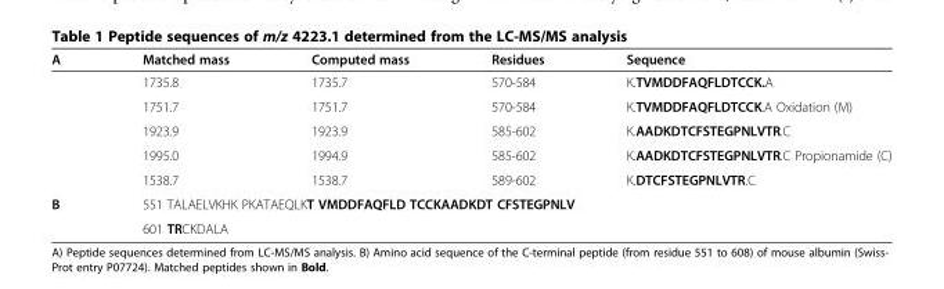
<table><thead><tr><td>A</td><td>Matched mass</td><td>Computed mass</td><td>Residues</td><td>Sequence</td></tr></thead><tbody><tr><td></td><td>1735.8</td><td>1735.7</td><td>570-584</td><td>K.TVMDDFAQFLDTCCK.A</td></tr><tr><td></td><td>1751.7</td><td>1751.7</td><td>570-584</td><td>K.TVMDDFAQFLDTCCK.A Oxidation (M)</td></tr><tr><td></td><td>1923.9</td><td>1923.9</td><td>585-602</td><td>K.AADKDTCFSTEGPNLVTR.C</td></tr><tr><td></td><td>1995.0</td><td>1994.9</td><td>585-602</td><td>K.AADKDTCFSTEGPNLVTR.C Propionamide (C)</td></tr><tr><td></td><td>1538.7</td><td>1538.7</td><td>589-602</td><td>K.DTCFSTEGPNLVTR.C</td></tr><tr><td rowspan="2">B</td><td colspan="4">551 TALAELVKHK PKATAEQLKT VMDDFAQFLD TCCKAADKDT CFSTEGPNLV</td></tr><tr><td colspan="4">601 TRCKDALA</td></tr></tbody></table>